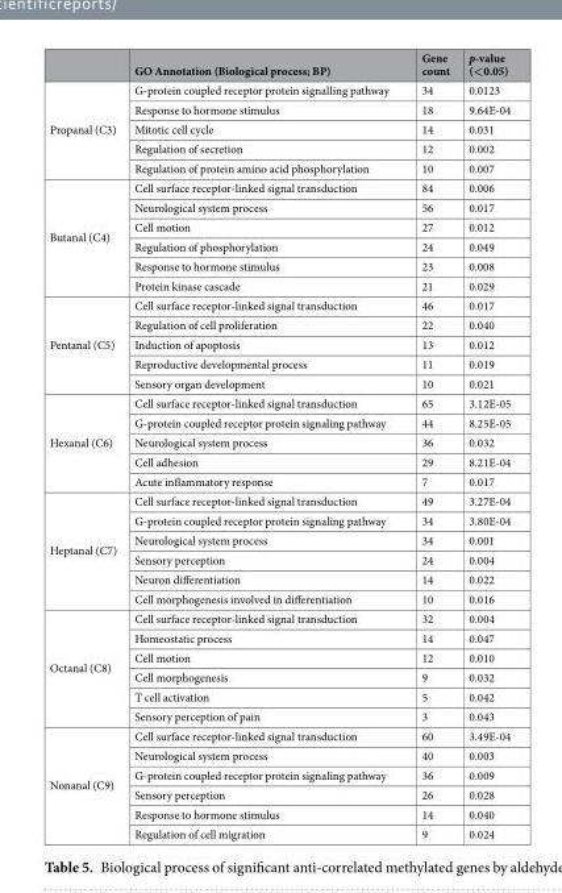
<table><thead><tr><td></td><td>GO Annotation (Biological process; BP)</td><td>Gene count</td><td>p-value (&lt;0.05)</td></tr></thead><tbody><tr><td rowspan="5">Propanal (C3)</td><td>G-protein coupled receptor protein signalling pathway</td><td>34</td><td>0.0123</td></tr><tr><td>Response to hormone stimulus</td><td>18</td><td>9.64E-04</td></tr><tr><td>Mitotic cell cycle</td><td>14</td><td>0.031</td></tr><tr><td>Regulation of secretion</td><td>12</td><td>0.002</td></tr><tr><td>Regulation of protein amino acid phosphorylation</td><td>10</td><td>0.007</td></tr><tr><td rowspan="6">Butanal (C4)</td><td>Cell surface receptor-linked signal transduction</td><td>84</td><td>0.006</td></tr><tr><td>Neurological system process</td><td>56</td><td>0.017</td></tr><tr><td>Cell motion</td><td>27</td><td>0.012</td></tr><tr><td>Regulation of phosphorylation</td><td>24</td><td>0.049</td></tr><tr><td>Response to hormone stimulus</td><td>23</td><td>0.008</td></tr><tr><td>Protein kinase cascade</td><td>21</td><td>0.029</td></tr><tr><td rowspan="5">Pentanal (C5)</td><td>Cell surface receptor-linked signal transduction</td><td>46</td><td>0.017</td></tr><tr><td>Regulation of cell proliferation</td><td>22</td><td>0.040</td></tr><tr><td>Induction of apoptosis</td><td>13</td><td>0.012</td></tr><tr><td>Reproductive developmental process</td><td>11</td><td>0.019</td></tr><tr><td>Sensory organ development</td><td>10</td><td>0.021</td></tr><tr><td rowspan="5">Hexanal (C6)</td><td>Cell surface receptor-linked signal transduction</td><td>65</td><td>3.12E-05</td></tr><tr><td>G-protein coupled receptor protein signaling pathway</td><td>44</td><td>8.25E-05</td></tr><tr><td>Neurological system process</td><td>36</td><td>0.032</td></tr><tr><td>Cell adhesion</td><td>29</td><td>8.21E-04</td></tr><tr><td>Acute inflammatory response</td><td>7</td><td>0.017</td></tr><tr><td rowspan="6">Heptanal (C7)</td><td>Cell surface receptor-linked signal transduction</td><td>49</td><td>3.27E-04</td></tr><tr><td>G-protein coupled receptor protein signaling pathway</td><td>34</td><td>3.80E-04</td></tr><tr><td>Neurological system process</td><td>34</td><td>0.001</td></tr><tr><td>Sensory perception</td><td>24</td><td>0.004</td></tr><tr><td>Neuron differentiation</td><td>14</td><td>0.022</td></tr><tr><td>Cell morphogenesis involved in differentiation</td><td>10</td><td>0.016</td></tr><tr><td rowspan="6">Octanal (C8)</td><td>Cell surface receptor-linked signal transduction</td><td>32</td><td>0.004</td></tr><tr><td>Homeostatic process</td><td>14</td><td>0.047</td></tr><tr><td>Cell motion</td><td>12</td><td>0.010</td></tr><tr><td>Cell morphogenesis</td><td>9</td><td>0.032</td></tr><tr><td>T cell activation</td><td>5</td><td>0.042</td></tr><tr><td>Sensory perception of pain</td><td>3</td><td>0.043</td></tr><tr><td rowspan="6">Nonanal (C9)</td><td>Cell surface receptor-linked signal transduction</td><td>60</td><td>3.49E-04</td></tr><tr><td>Neurological system process</td><td>40</td><td>0.003</td></tr><tr><td>G-protein coupled receptor protein signaling pathway</td><td>36</td><td>0.009</td></tr><tr><td>Sensory perception</td><td>26</td><td>0.028</td></tr><tr><td>Response to hormone stimulus</td><td>14</td><td>0.040</td></tr><tr><td>Regulation of cell migration</td><td>9</td><td>0.024</td></tr></tbody></table>